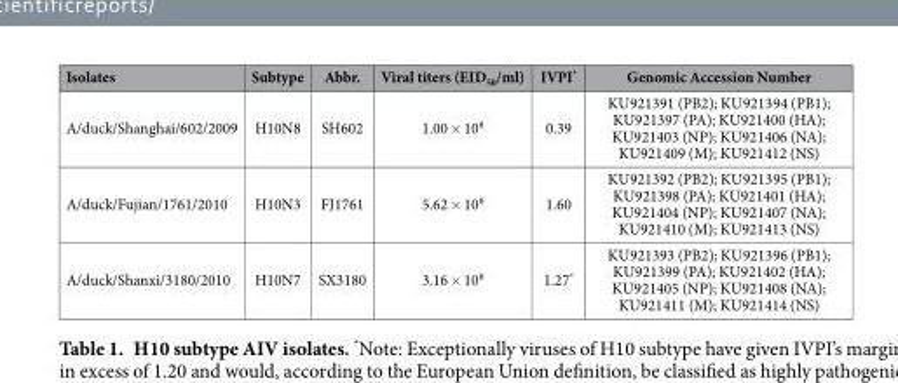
<table><thead><tr><td>Isolates</td><td>Subtype</td><td>Abbr.</td><td>Viral titers (EID<sub>50</sub>/ml)</td><td>IVPI*</td><td>Genomic Accession Number</td></tr></thead><tbody><tr><td>A/duck/Shanghai/602/2009</td><td>H10N8</td><td>SH602</td><td>1.00 × 10<sup>8</sup></td><td>0.39</td><td>KU921391 (PB2); KU921394 (PB1); KU921397 (PA); KU921400 (HA); KU921403 (NP); KU921406 (NA); KU921409 (M); KU921412 (NS)</td></tr><tr><td>A/duck/Fujian/1761/2010</td><td>H10N3</td><td>FJ1761</td><td>5.62 × 10<sup>8</sup></td><td>1.60</td><td>KU921392 (PB2); KU921395 (PB1); KU921398 (PA); KU921401 (HA); KU921404 (NP); KU921407 (NA); KU921410 (M); KU921413 (NS)</td></tr><tr><td>A/duck/Shanxi/3180/2010</td><td>H10N7</td><td>SX3180</td><td>3.16 × 10<sup>8</sup></td><td>1.27*</td><td>KU921393 (PB2); KU921396 (PB1); KU921399 (PA); KU921402 (HA); KU921405 (NP); KU921408 (NA); KU921411 (M); KU921414 (NS)</td></tr></tbody></table>